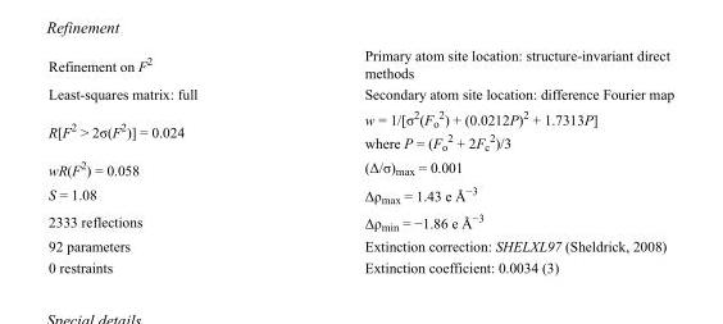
<table><tbody><tr><td>Refinement on F<sup>2</sup></td><td>Primary atom site location: structure-invariant direct methods</td></tr><tr><td>Least-squares matrix: full</td><td>Secondary atom site location: difference Fourier map</td></tr><tr><td>R[F<sup>2</sup> &gt; 2σ(F<sup>2</sup>)] = 0.024</td><td>w = 1/[σ<sup>2</sup>(F<sub>o</sub> <sup>2</sup>) + (0.0212P)<sup>2</sup> + 1.7313P] where P = (F<sub>o</sub> <sup>2</sup> + 2F<sub>c</sub> <sup>2</sup>)/3</td></tr><tr><td>wR(F<sup>2</sup>) = 0.058</td><td>(Δ/σ)<sub>max</sub> = 0.001</td></tr><tr><td>S = 1.08</td><td>Δρ<sub>max</sub> = 1.43 e Å<sup>−3</sup></td></tr><tr><td>2333 reflections</td><td>Δρ<sub>min</sub> = −1.86 e Å<sup>−3</sup></td></tr><tr><td>92 parameters</td><td>Extinction correction: SHELXL97 (Sheldrick, 2008)</td></tr><tr><td>0 restraints</td><td>Extinction coefficient: 0.0034 (3)</td></tr></tbody></table>